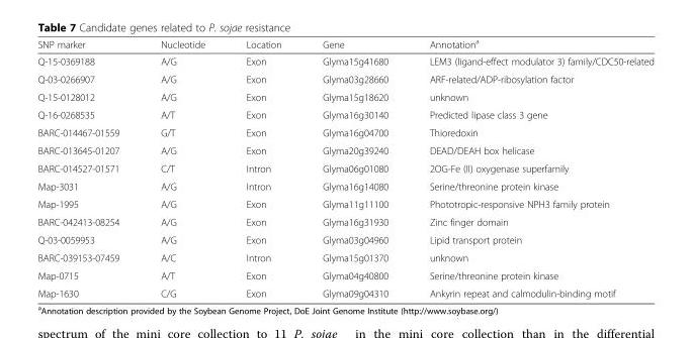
<table><thead><tr><td>SNP marker</td><td>Nucleotide</td><td>Location</td><td>Gene</td><td>Annotation<sup>a</sup></td></tr></thead><tbody><tr><td>Q-15-0369188</td><td>A/G</td><td>Exon</td><td>Glyma15g41680</td><td>LEM3 (ligand-effect modulator 3) family/CDC50-related</td></tr><tr><td>Q-03-0266907</td><td>A/G</td><td>Exon</td><td>Glyma03g28660</td><td>ARF-related/ADP-ribosylation factor</td></tr><tr><td>Q-15-0128012</td><td>A/G</td><td>Exon</td><td>Glyma15g18620</td><td>unknown</td></tr><tr><td>Q-16-0268535</td><td>A/T</td><td>Exon</td><td>Glyma16g30140</td><td>Predicted lipase class 3 gene</td></tr><tr><td>BARC-014467-01559</td><td>G/T</td><td>Exon</td><td>Glyma16g04700</td><td>Thioredoxin</td></tr><tr><td>BARC-013645-01207</td><td>A/G</td><td>Exon</td><td>Glyma20g39240</td><td>DEAD/DEAH box helicase</td></tr><tr><td>BARC-014527-01571</td><td>C/T</td><td>Intron</td><td>Glyma06g01080</td><td>2OG-Fe (II) oxygenase superfamily</td></tr><tr><td>Map-3031</td><td>A/G</td><td>Intron</td><td>Glyma16g14080</td><td>Serine/threonine protein kinase</td></tr><tr><td>Map-1995</td><td>A/G</td><td>Exon</td><td>Glyma11g11100</td><td>Phototropic-responsive NPH3 family protein</td></tr><tr><td>BARC-042413-08254</td><td>A/G</td><td>Exon</td><td>Glyma16g31930</td><td>Zinc finger domain</td></tr><tr><td>Q-03-0059953</td><td>A/G</td><td>Exon</td><td>Glyma03g04960</td><td>Lipid transport protein</td></tr><tr><td>BARC-039153-07459</td><td>A/C</td><td>Intron</td><td>Glyma15g01370</td><td>unknown</td></tr><tr><td>Map-0715</td><td>A/T</td><td>Exon</td><td>Glyma04g40800</td><td>Serine/threonine protein kinase</td></tr><tr><td>Map-1630</td><td>C/G</td><td>Exon</td><td>Glyma09g04310</td><td>Ankyrin repeat and calmodulin-binding motif</td></tr></tbody></table>